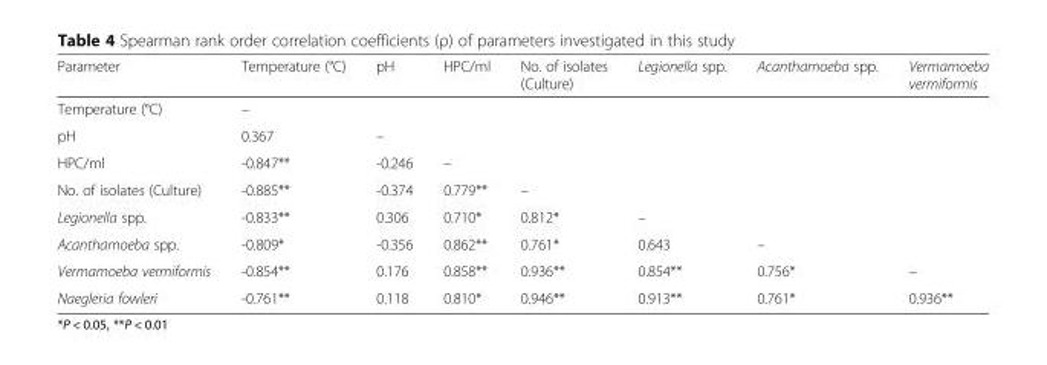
<table><thead><tr><td>Parameter</td><td>Temperature (°C)</td><td>pH</td><td>HPC/ml</td><td>No. of isolates (Culture)</td><td>Legionella spp.</td><td>Acanthamoeba spp.</td><td>Vermamoeba vermiformis</td></tr></thead><tbody><tr><td>Temperature (°C)</td><td>–</td><td></td><td></td><td></td><td></td><td></td><td></td></tr><tr><td>pH</td><td>0.367</td><td>–</td><td></td><td></td><td></td><td></td><td></td></tr><tr><td>HPC/ml</td><td>-0.847**</td><td>-0.246</td><td>–</td><td></td><td></td><td></td><td></td></tr><tr><td>No. of isolates (Culture)</td><td>-0.885**</td><td>-0.374</td><td>0.779**</td><td>–</td><td></td><td></td><td></td></tr><tr><td>Legionella spp.</td><td>-0.833**</td><td>0.306</td><td>0.710*</td><td>0.812*</td><td>–</td><td></td><td></td></tr><tr><td>Acanthamoeba spp.</td><td>-0.809*</td><td>-0.356</td><td>0.862**</td><td>0.761*</td><td>0.643</td><td>–</td><td></td></tr><tr><td>Vermamoeba vermiformis</td><td>-0.854**</td><td>0.176</td><td>0.858**</td><td>0.936**</td><td>0.854**</td><td>0.756*</td><td>–</td></tr><tr><td>Naegleria fowleri</td><td>-0.761**</td><td>0.118</td><td>0.810*</td><td>0.946**</td><td>0.913**</td><td>0.761*</td><td>0.936**</td></tr></tbody></table>